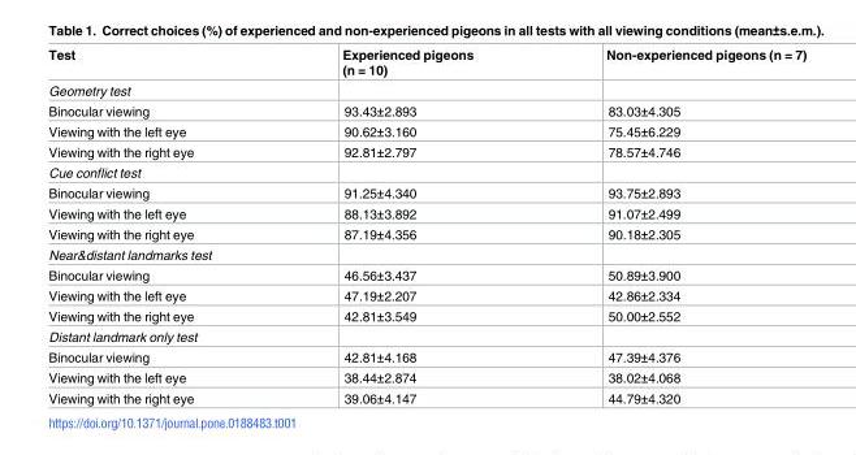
<table><thead><tr><td>Test</td><td>Experienced pigeons (n = 10)</td><td>Non-experienced pigeons (n = 7)</td></tr></thead><tbody><tr><td colspan="3">Geometry test</td></tr><tr><td>Binocular viewing</td><td>93.43±2.893</td><td>83.03±4.305</td></tr><tr><td>Viewing with the left eye</td><td>90.62±3.160</td><td>75.45±6.229</td></tr><tr><td>Viewing with the right eye</td><td>92.81±2.797</td><td>78.57±4.746</td></tr><tr><td colspan="3">Cue conflict test</td></tr><tr><td>Binocular viewing</td><td>91.25±4.340</td><td>93.75±2.893</td></tr><tr><td>Viewing with the left eye</td><td>88.13±3.892</td><td>91.07±2.499</td></tr><tr><td>Viewing with the right eye</td><td>87.19±4.356</td><td>90.18±2.305</td></tr><tr><td colspan="3">Near&amp;distant landmarks test</td></tr><tr><td>Binocular viewing</td><td>46.56±3.437</td><td>50.89±3.900</td></tr><tr><td>Viewing with the left eye</td><td>47.19±2.207</td><td>42.86±2.334</td></tr><tr><td>Viewing with the right eye</td><td>42.81±3.549</td><td>50.00±2.552</td></tr><tr><td colspan="3">Distant landmark only test</td></tr><tr><td>Binocular viewing</td><td>42.81±4.168</td><td>47.39±4.376</td></tr><tr><td>Viewing with the left eye</td><td>38.44±2.874</td><td>38.02±4.068</td></tr><tr><td>Viewing with the right eye</td><td>39.06±4.147</td><td>44.79±4.320</td></tr></tbody></table>